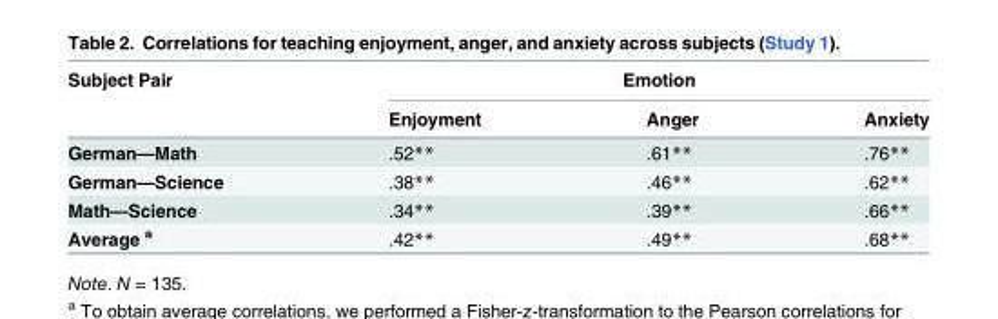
<table><thead><tr><td rowspan="2">Subject Pair</td><td colspan="3">Emotion</td></tr><tr><td>Enjoyment</td><td>Anger</td><td>Anxiety</td></tr></thead><tbody><tr><td>German—Math</td><td>.52**</td><td>.61**</td><td>.76**</td></tr><tr><td>German—Science</td><td>.38**</td><td>.46**</td><td>.62**</td></tr><tr><td>Math—Science</td><td>.34**</td><td>.39**</td><td>.66**</td></tr><tr><td>Average <sup>a</sup></td><td>.42**</td><td>.49**</td><td>.68**</td></tr></tbody></table>